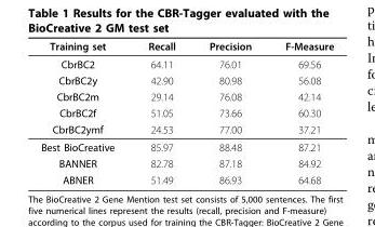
<table><thead><tr><td>Training set</td><td>Recall</td><td>Precision</td><td>F-Measure</td></tr></thead><tbody><tr><td>CbrBC2</td><td>64.11</td><td>76.01</td><td>69.56</td></tr><tr><td>CbrBC2y</td><td>42.90</td><td>80.98</td><td>56.08</td></tr><tr><td>CbrBC2m</td><td>29.14</td><td>76.08</td><td>42.14</td></tr><tr><td>CbrBC2f</td><td>51.05</td><td>73.66</td><td>60.30</td></tr><tr><td>CbrBC2ymf</td><td>24.53</td><td>77.00</td><td>37.21</td></tr><tr><td>Best BioCreative</td><td>85.97</td><td>88.48</td><td>87.21</td></tr><tr><td>BANNER</td><td>82.78</td><td>87.18</td><td>84.92</td></tr><tr><td>ABNER</td><td>51.49</td><td>86.93</td><td>64.68</td></tr></tbody></table>